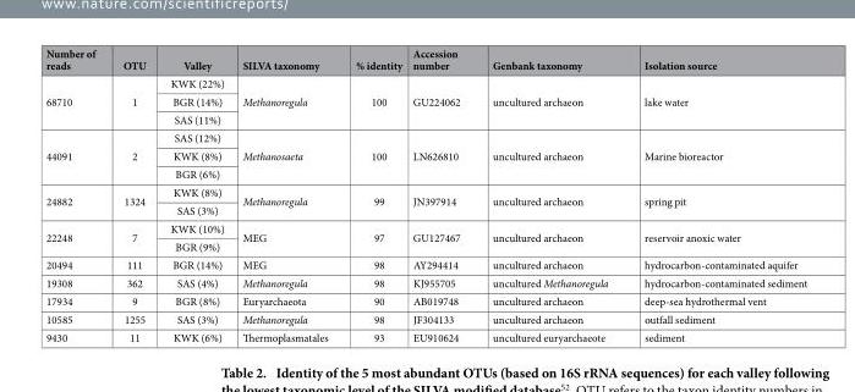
<table><thead><tr><td>Number of reads</td><td>OTU</td><td>Valley</td><td>SILVA taxonomy</td><td>% identity</td><td>Accession number</td><td>Genbank taxonomy</td><td>Isolation source</td></tr></thead><tbody><tr><td rowspan="3">68710</td><td rowspan="3">1</td><td>KWK (22%)</td><td rowspan="3">Methanoregula</td><td rowspan="3">100</td><td rowspan="3">GU224062</td><td rowspan="3">uncultured archaeon</td><td rowspan="3">lake water</td></tr><tr><td>BGR (14%)</td></tr><tr><td>SAS (11%)</td></tr><tr><td rowspan="3">44091</td><td rowspan="3">2</td><td>SAS (12%)</td><td rowspan="3">Methanosaeta</td><td rowspan="3">100</td><td rowspan="3">LN626810</td><td rowspan="3">uncultured archaeon</td><td rowspan="3">Marine bioreactor</td></tr><tr><td>KWK (8%)</td></tr><tr><td>BGR (6%)</td></tr><tr><td rowspan="2">24882</td><td rowspan="2">1324</td><td>KWK (8%)</td><td rowspan="2">Methanoregula</td><td rowspan="2">99</td><td rowspan="2">JN397914</td><td rowspan="2">uncultured archaeon</td><td rowspan="2">spring pit</td></tr><tr><td>SAS (3%)</td></tr><tr><td rowspan="2">22248</td><td rowspan="2">7</td><td>KWK (10%)</td><td rowspan="2">MEG</td><td rowspan="2">97</td><td rowspan="2">GU127467</td><td rowspan="2">uncultured archaeon</td><td rowspan="2">reservoir anoxic water</td></tr><tr><td>BGR (9%)</td></tr><tr><td>20494</td><td>111</td><td>BGR (14%)</td><td>MEG</td><td>98</td><td>AY294414</td><td>uncultured archaeon</td><td>hydrocarbon-contaminated aquifer</td></tr><tr><td>19308</td><td>362</td><td>SAS (4%)</td><td>Methanoregula</td><td>98</td><td>KJ955705</td><td>uncultured Methanoregula</td><td>hydrocarbon-contaminated sediment</td></tr><tr><td>17934</td><td>9</td><td>BGR (8%)</td><td>Euryarchaeota</td><td>90</td><td>AB019748</td><td>uncultured archaeon</td><td>deep-sea hydrothermal vent</td></tr><tr><td>10585</td><td>1255</td><td>SAS (3%)</td><td>Methanoregula</td><td>98</td><td>JF304133</td><td>uncultured archaeon</td><td>outfall sediment</td></tr><tr><td>9430</td><td>11</td><td>KWK (6%)</td><td>Thermoplasmatales</td><td>93</td><td>EU910624</td><td>uncultured euryarchaeote</td><td>sediment</td></tr></tbody></table>